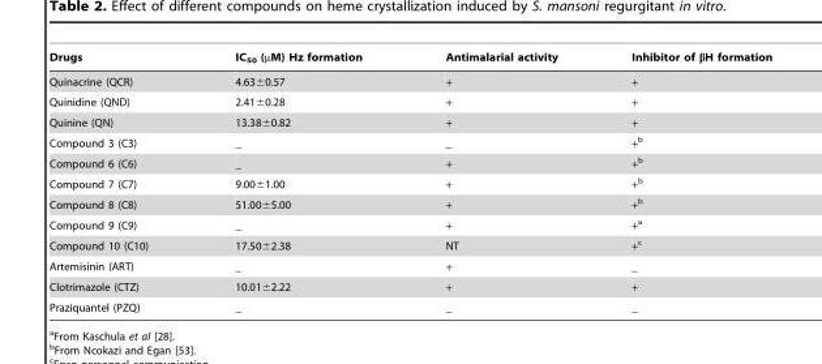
<table><thead><tr><td>Drugs</td><td>IC<sub>50</sub> (µM) Hz formation</td><td>Antimalarial activity</td><td>Inhibitor of βH formation</td></tr></thead><tbody><tr><td>Quinacrine (QCR)</td><td>4.63±0.57</td><td>+</td><td>+</td></tr><tr><td>Quinidine (QND)</td><td>2.41±0.28</td><td>+</td><td>+</td></tr><tr><td>Quinine (QN)</td><td>13.38±0.82</td><td>+</td><td>+</td></tr><tr><td>Compound 3 (C3)</td><td>_</td><td>_</td><td>+<sup>b</sup></td></tr><tr><td>Compound 6 (C6)</td><td>_</td><td>+</td><td>+<sup>b</sup></td></tr><tr><td>Compound 7 (C7)</td><td>9.00±1.00</td><td>+</td><td>+<sup>b</sup></td></tr><tr><td>Compound 8 (C8)</td><td>51.00±5.00</td><td>+</td><td>+<sup>b</sup></td></tr><tr><td>Compound 9 (C9)</td><td>_</td><td>+</td><td>+<sup>a</sup></td></tr><tr><td>Compound 10 (C10)</td><td>17.50±2.38</td><td>NT</td><td>+<sup>c</sup></td></tr><tr><td>Artemisinin (ART)</td><td>_</td><td>+</td><td>_</td></tr><tr><td>Clotrimazole (CTZ)</td><td>10.01±2.22</td><td>+</td><td>+</td></tr><tr><td>Praziquantel (PZQ)</td><td>_</td><td>_</td><td>_</td></tr></tbody></table>